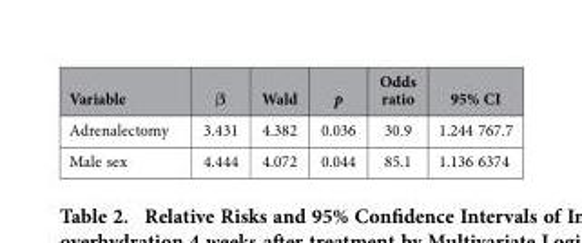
<table><thead><tr><td>Variable</td><td>β</td><td>Wald</td><td>p</td><td>Odds ratio</td><td>95% CI</td></tr></thead><tbody><tr><td>Adrenalectomy</td><td>3.431</td><td>4.382</td><td>0.036</td><td>30.9</td><td>1.244 767.7</td></tr><tr><td>Male sex</td><td>4.444</td><td>4.072</td><td>0.044</td><td>85.1</td><td>1.136 6374</td></tr></tbody></table>